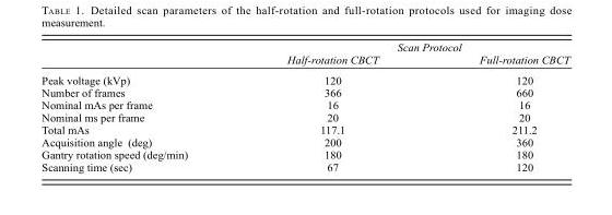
<table><thead><tr><td rowspan="2"></td><td colspan="2">Scan Protocol</td></tr><tr><td>Half-rotation CBCT</td><td>Full-rotation CBCT</td></tr></thead><tbody><tr><td>Peak voltage (kVp)</td><td>120</td><td>120</td></tr><tr><td>Number of frames</td><td>366</td><td>660</td></tr><tr><td>Nominal mAs per frame</td><td>16</td><td>16</td></tr><tr><td>Nominal ms per frame</td><td>20</td><td>20</td></tr><tr><td>Total mAs</td><td>117.1</td><td>211.2</td></tr><tr><td>Acquisition angle (deg)</td><td>200</td><td>360</td></tr><tr><td>Gantry rotation speed (deg/min)</td><td>180</td><td>180</td></tr><tr><td>Scanning time (sec)</td><td>67</td><td>120</td></tr></tbody></table>